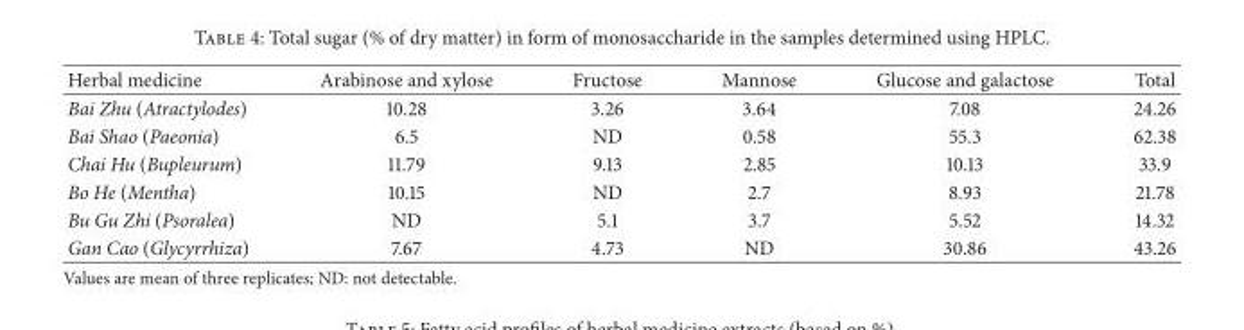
<table><thead><tr><td>Herbal medicine</td><td>Arabinose and xylose</td><td>Fructose</td><td>Mannose</td><td>Glucose and galactose</td><td>Total</td></tr></thead><tbody><tr><td>Bai Zhu (Atractylodes)</td><td>10.28</td><td>3.26</td><td>3.64</td><td>7.08</td><td>24.26</td></tr><tr><td>Bai Shao (Paeonia)</td><td>6.5</td><td>ND</td><td>0.58</td><td>55.3</td><td>62.38</td></tr><tr><td>Chai Hu (Bupleurum)</td><td>11.79</td><td>9.13</td><td>2.85</td><td>10.13</td><td>33.9</td></tr><tr><td>Bo He (Mentha)</td><td>10.15</td><td>ND</td><td>2.7</td><td>8.93</td><td>21.78</td></tr><tr><td>Bu Gu Zhi (Psoralea)</td><td>ND</td><td>5.1</td><td>3.7</td><td>5.52</td><td>14.32</td></tr><tr><td>Gan Cao (Glycyrrhiza)</td><td>7.67</td><td>4.73</td><td>ND</td><td>30.86</td><td>43.26</td></tr></tbody></table>